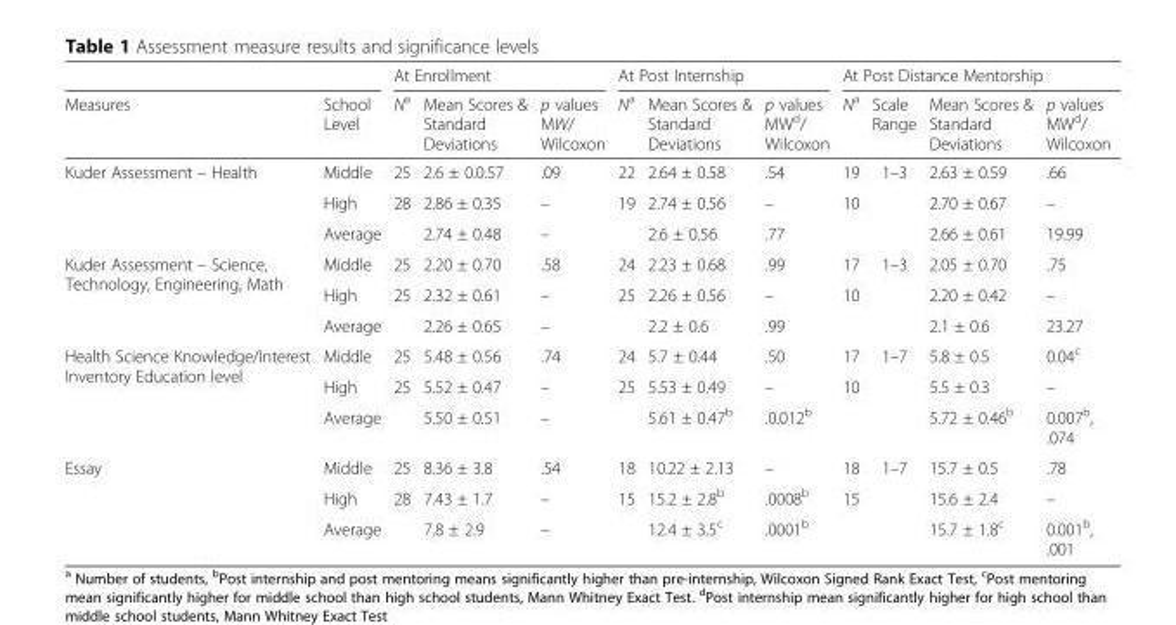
<table><thead><tr><td rowspan="2">Measures</td><td rowspan="2">School Level</td><td colspan="3">At Enrollment</td><td colspan="3">At Post Internship</td><td colspan="4">At Post Distance Mentorship</td></tr><tr><td>N<sup>a</sup></td><td>Mean Scores &amp; Standard Deviations</td><td>p values MW/ Wilcoxon</td><td>N<sup>a</sup></td><td>Mean Scores &amp; Standard Deviations</td><td>p values MW<sup>d</sup>/ Wilcoxon</td><td>N<sup>a</sup></td><td>Scale Range</td><td>Mean Scores &amp; Standard Deviations</td><td>p values MW<sup>d</sup>/ Wilcoxon</td></tr></thead><tbody><tr><td rowspan="3">Kuder Assessment – Health</td><td>Middle</td><td>25</td><td>2.6 ± 0.0.57</td><td>.09</td><td>22</td><td>2.64 ± 0.58</td><td>.54</td><td>19</td><td>1–3</td><td>2.63 ± 0.59</td><td>.66</td></tr><tr><td>High</td><td>28</td><td>2.86 ± 0.35</td><td>–</td><td>19</td><td>2.74 ± 0.56</td><td>–</td><td>10</td><td></td><td>2.70 ± 0.67</td><td>–</td></tr><tr><td>Average</td><td></td><td>2.74 ± 0.48</td><td>–</td><td></td><td>2.6 ± 0.56</td><td>.77</td><td></td><td></td><td>2.66 ± 0.61</td><td>19.99</td></tr><tr><td rowspan="3">Kuder Assessment – Science, Technology, Engineering, Math</td><td>Middle</td><td>25</td><td>2.20 ± 0.70</td><td>.58</td><td>24</td><td>2.23 ± 0.68</td><td>.99</td><td>17</td><td>1–3</td><td>2.05 ± 0.70</td><td>.75</td></tr><tr><td>High</td><td>25</td><td>2.32 ± 0.61</td><td>–</td><td>25</td><td>2.26 ± 0.56</td><td>–</td><td>10</td><td></td><td>2.20 ± 0.42</td><td>–</td></tr><tr><td>Average</td><td></td><td>2.26 ± 0.65</td><td>–</td><td></td><td>2.2 ± 0.6</td><td>.99</td><td></td><td></td><td>2.1 ± 0.6</td><td>23.27</td></tr><tr><td rowspan="3">Health Science Knowledge/Interest Inventory Education level</td><td>Middle</td><td>25</td><td>5.48 ± 0.56</td><td>.74</td><td>24</td><td>5.7 ± 0.44</td><td>.50</td><td>17</td><td>1–7</td><td>5.8 ± 0.5</td><td>0.04<sup>c</sup></td></tr><tr><td>High</td><td>25</td><td>5.52 ± 0.47</td><td>–</td><td>25</td><td>5.53 ± 0.49</td><td>–</td><td>10</td><td></td><td>5.5 ± 0.3</td><td>–</td></tr><tr><td>Average</td><td></td><td>5.50 ± 0.51</td><td>–</td><td></td><td>5.61 ± 0.47<sup>b</sup></td><td>.0.012<sup>b</sup></td><td></td><td></td><td>5.72 ± 0.46<sup>b</sup></td><td>0.007<sup>b</sup>, .074</td></tr><tr><td rowspan="3">Essay</td><td>Middle</td><td>25</td><td>8.36 ± 3.8</td><td>.54</td><td>18</td><td>10.22 ± 2.13</td><td>–</td><td>18</td><td>1–7</td><td>15.7 ± 0.5</td><td>.78</td></tr><tr><td>High</td><td>28</td><td>7.43 ± 1.7</td><td>–</td><td>15</td><td>15.2 ± 2.8<sup>b</sup></td><td>.0008<sup>b</sup></td><td>15</td><td></td><td>15.6 ± 2.4</td><td>–</td></tr><tr><td>Average</td><td></td><td>7.8 ± 2.9</td><td>–</td><td></td><td>12.4 ± 3.5<sup>c</sup></td><td>.0001<sup>b</sup></td><td></td><td></td><td>15.7 ± 1.8<sup>c</sup></td><td>0.001<sup>b</sup>, .001</td></tr></tbody></table>